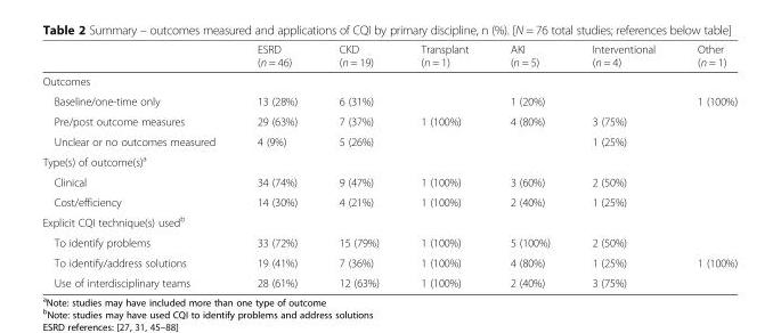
<table><thead><tr><td></td><td>ESRD (n = 46)</td><td>CKD (n = 19)</td><td>Transplant (n = 1)</td><td>AKI (n = 5)</td><td>Interventional (n = 4)</td><td>Other (n = 1)</td></tr></thead><tbody><tr><td colspan="7">Outcomes</td></tr><tr><td>Baseline/one-time only</td><td>13 (28%)</td><td>6 (31%)</td><td></td><td>1 (20%)</td><td></td><td>1 (100%)</td></tr><tr><td>Pre/post outcome measures</td><td>29 (63%)</td><td>7 (37%)</td><td>1 (100%)</td><td>4 (80%)</td><td>3 (75%)</td><td></td></tr><tr><td>Unclear or no outcomes measured</td><td>4 (9%)</td><td>5 (26%)</td><td></td><td></td><td>1 (25%)</td><td></td></tr><tr><td colspan="7">Type(s) of outcome(s)<sup>a</sup></td></tr><tr><td>Clinical</td><td>34 (74%)</td><td>9 (47%)</td><td>1 (100%)</td><td>3 (60%)</td><td>2 (50%)</td><td></td></tr><tr><td>Cost/efficiency</td><td>14 (30%)</td><td>4 (21%)</td><td>1 (100%)</td><td>2 (40%)</td><td>1 (25%)</td><td></td></tr><tr><td colspan="7">Explicit CQI technique(s) used<sup>b</sup></td></tr><tr><td>To identify problems</td><td>33 (72%)</td><td>15 (79%)</td><td>1 (100%)</td><td>5 (100%)</td><td>2 (50%)</td><td></td></tr><tr><td>To identify/address solutions</td><td>19 (41%)</td><td>7 (36%)</td><td>1 (100%)</td><td>4 (80%)</td><td>1 (25%)</td><td>1 (100%)</td></tr><tr><td>Use of interdisciplinary teams</td><td>28 (61%)</td><td>12 (63%)</td><td>1 (100%)</td><td>2 (40%)</td><td>3 (75%)</td><td></td></tr></tbody></table>